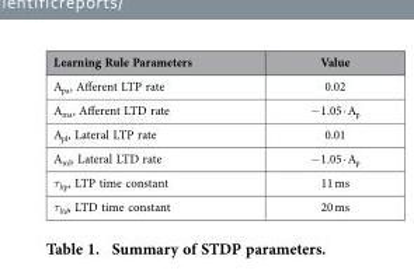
<table><thead><tr><td>Learning Rule Parameters</td><td>Value</td></tr></thead><tbody><tr><td>A<sub>pa</sub>, Afferent LTP rate</td><td>0.02</td></tr><tr><td>A<sub>ma</sub>, Afferent LTD rate</td><td>− 1.05 · A<sub>p</sub></td></tr><tr><td>A<sub>pl</sub>, Lateral LTP rate</td><td>0.01</td></tr><tr><td>A<sub>ml</sub>, Lateral LTD rate</td><td>− 1.05 · A<sub>p</sub></td></tr><tr><td>τ<sub>ltp</sub>, LTP time constant</td><td>11 ms</td></tr><tr><td>τ<sub>ltd</sub>, LTD time constant</td><td>20 ms</td></tr></tbody></table>